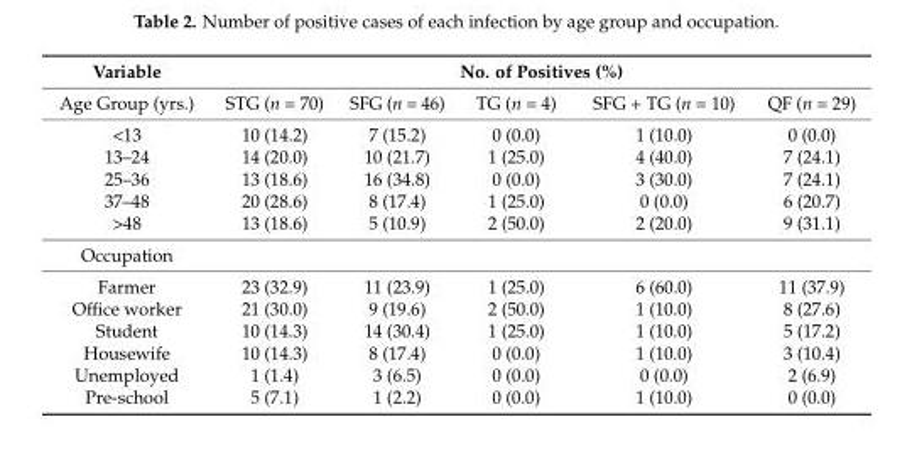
<table><thead><tr><td rowspan="2">Variable Age Group (yrs.)</td><td colspan="5">No. of Positives (%)</td></tr><tr><td>STG (n = 70)</td><td>SFG (n = 46)</td><td>TG (n = 4)</td><td>SFG + TG (n = 10)</td><td>QF (n = 29)</td></tr></thead><tbody><tr><td>&lt;13</td><td>10 (14.2)</td><td>7 (15.2)</td><td>0 (0.0)</td><td>1 (10.0)</td><td>0 (0.0)</td></tr><tr><td>13–24</td><td>14 (20.0)</td><td>10 (21.7)</td><td>1 (25.0)</td><td>4 (40.0)</td><td>7 (24.1)</td></tr><tr><td>25–36</td><td>13 (18.6)</td><td>16 (34.8)</td><td>0 (0.0)</td><td>3 (30.0)</td><td>7 (24.1)</td></tr><tr><td>37–48</td><td>20 (28.6)</td><td>8 (17.4)</td><td>1 (25.0)</td><td>0 (0.0)</td><td>6 (20.7)</td></tr><tr><td>&gt;48</td><td>13 (18.6)</td><td>5 (10.9)</td><td>2 (50.0)</td><td>2 (20.0)</td><td>9 (31.1)</td></tr><tr><td colspan="6">Occupation</td></tr><tr><td>Farmer</td><td>23 (32.9)</td><td>11 (23.9)</td><td>1 (25.0)</td><td>6 (60.0)</td><td>11 (37.9)</td></tr><tr><td>Office worker</td><td>21 (30.0)</td><td>9 (19.6)</td><td>2 (50.0)</td><td>1 (10.0)</td><td>8 (27.6)</td></tr><tr><td>Student</td><td>10 (14.3)</td><td>14 (30.4)</td><td>1 (25.0)</td><td>1 (10.0)</td><td>5 (17.2)</td></tr><tr><td>Housewife</td><td>10 (14.3)</td><td>8 (17.4)</td><td>0 (0.0)</td><td>1 (10.0)</td><td>3 (10.4)</td></tr><tr><td>Unemployed</td><td>1 (1.4)</td><td>3 (6.5)</td><td>0 (0.0)</td><td>0 (0.0)</td><td>2 (6.9)</td></tr><tr><td>Pre-school</td><td>5 (7.1)</td><td>1 (2.2)</td><td>0 (0.0)</td><td>1 (10.0)</td><td>0 (0.0)</td></tr></tbody></table>